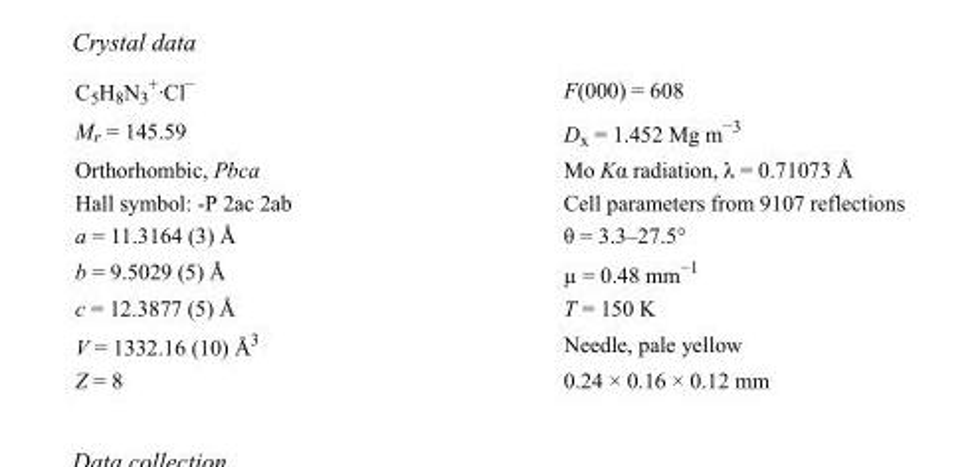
<table><tbody><tr><td>C<sub>5</sub>H<sub>8</sub>N<sub>3</sub> <sup>+</sup>·Cl<sup>−</sup></td><td>F(000) = 608</td></tr><tr><td>M<sub>r</sub> = 145.59</td><td>D<sub>x</sub> = 1.452 Mg m<sup>−3</sup></td></tr><tr><td>Orthorhombic, Pbca</td><td>Mo Kα radiation, λ = 0.71073 Å</td></tr><tr><td>Hall symbol: -P 2ac 2ab</td><td>Cell parameters from 9107 reflections</td></tr><tr><td>a = 11.3164 (3) Å</td><td>θ = 3.3–27.5°</td></tr><tr><td>b = 9.5029 (5) Å</td><td>µ = 0.48 mm<sup>−1</sup></td></tr><tr><td>c = 12.3877 (5) Å</td><td>T = 150 K</td></tr><tr><td>V = 1332.16 (10) Å<sup>3</sup></td><td>Needle, pale yellow</td></tr><tr><td>Z = 8</td><td>0.24 × 0.16 × 0.12 mm</td></tr></tbody></table>